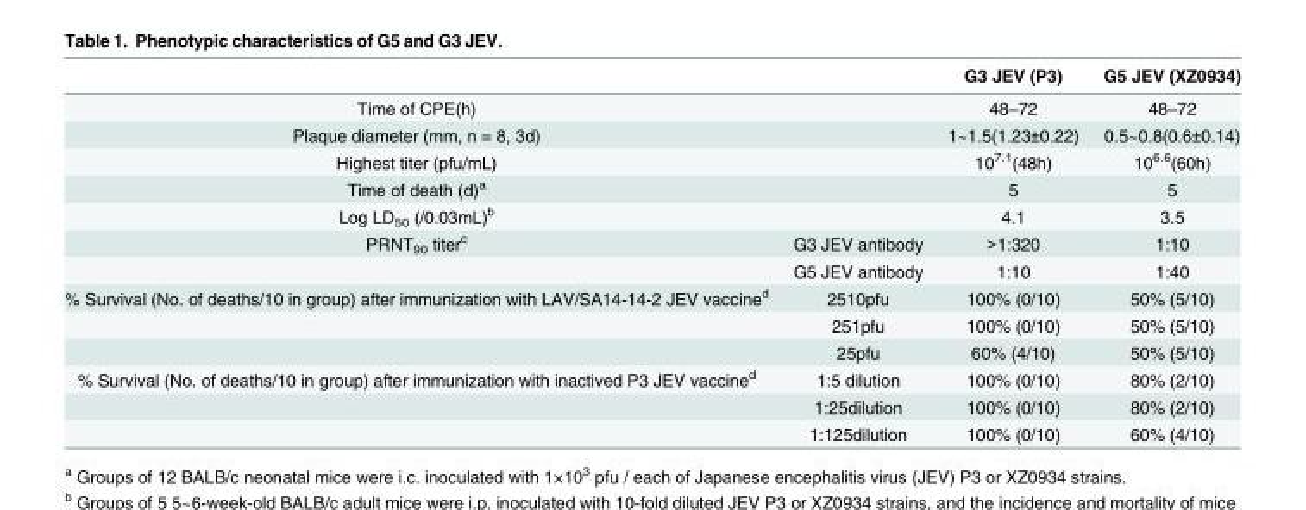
<table><thead><tr><td></td><td></td><td>G3 JEV (P3)</td><td>G5 JEV (XZ0934)</td></tr></thead><tbody><tr><td>Time of CPE(h)</td><td></td><td>48–72</td><td>48–72</td></tr><tr><td>Plaque diameter (mm, n = 8, 3d)</td><td></td><td>1~1.5(1.23±0.22)</td><td>0.5~0.8(0.6±0.14)</td></tr><tr><td>Highest titer (pfu/mL)</td><td></td><td>10<sup>7.1</sup>(48h)</td><td>10<sup>6.6</sup>(60h)</td></tr><tr><td>Time of death (d)<sup>a</sup></td><td></td><td>5</td><td>5</td></tr><tr><td>Log LD<sub>50</sub> (/0.03mL)<sup>b</sup></td><td></td><td>4.1</td><td>3.5</td></tr><tr><td rowspan="2">PRNT<sub>90</sub> titer<sup>c</sup></td><td>G3 JEV antibody</td><td>&gt;1:320</td><td>1:10</td></tr><tr><td>G5 JEV antibody</td><td>1:10</td><td>1:40</td></tr><tr><td rowspan="3">% Survival (No. of deaths/10 in group) after immunization with LAV/SA14-14-2 JEV vaccine<sup>d</sup></td><td>2510pfu</td><td>100% (0/10)</td><td>50% (5/10)</td></tr><tr><td>251pfu</td><td>100% (0/10)</td><td>50% (5/10)</td></tr><tr><td>25pfu</td><td>60% (4/10)</td><td>50% (5/10)</td></tr><tr><td rowspan="3">% Survival (No. of deaths/10 in group) after immunization with inactived P3 JEV vaccine<sup>d</sup></td><td>1:5 dilution</td><td>100% (0/10)</td><td>80% (2/10)</td></tr><tr><td>1:25dilution</td><td>100% (0/10)</td><td>80% (2/10)</td></tr><tr><td>1:125dilution</td><td>100% (0/10)</td><td>60% (4/10)</td></tr></tbody></table>